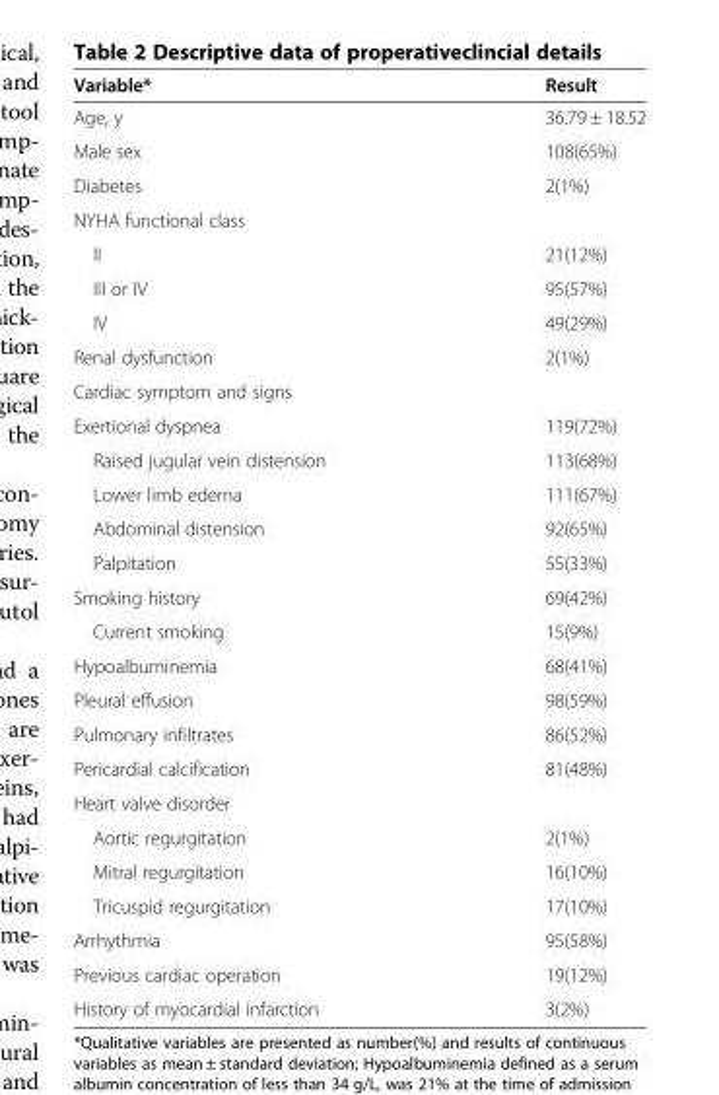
<table><thead><tr><td>Variable*</td><td>Result</td></tr></thead><tbody><tr><td>Age, y</td><td>36.79 ± 18.52</td></tr><tr><td>Male sex</td><td>108(65%)</td></tr><tr><td>Diabetes</td><td>2(1%)</td></tr><tr><td colspan="2">NYHA functional class</td></tr><tr><td>II</td><td>21(12%)</td></tr><tr><td>III or IV</td><td>95(57%)</td></tr><tr><td>IV</td><td>49(29%)</td></tr><tr><td>Renal dysfunction</td><td>2(1%)</td></tr><tr><td colspan="2">Cardiac symptom and signs</td></tr><tr><td>Exertional dyspnea</td><td>119(72%)</td></tr><tr><td>Raised jugular vein distension</td><td>113(68%)</td></tr><tr><td>Lower limb edema</td><td>111(67%)</td></tr><tr><td>Abdominal distension</td><td>92(65%)</td></tr><tr><td>Palpitation</td><td>55(33%)</td></tr><tr><td>Smoking history</td><td>69(42%)</td></tr><tr><td>Current smoking</td><td>15(9%)</td></tr><tr><td>Hypoalbuminemia</td><td>68(41%)</td></tr><tr><td>Pleural effusion</td><td>98(59%)</td></tr><tr><td>Pulmonary infiltrates</td><td>86(52%)</td></tr><tr><td>Pericardial calcification</td><td>81(48%)</td></tr><tr><td colspan="2">Heart valve disorder</td></tr><tr><td>Aortic regurgitation</td><td>2(1%)</td></tr><tr><td>Mitral regurgitation</td><td>16(10%)</td></tr><tr><td>Tricuspid regurgitation</td><td>17(10%)</td></tr><tr><td>Arrhythmia</td><td>95(58%)</td></tr><tr><td>Previous cardiac operation</td><td>19(12%)</td></tr><tr><td>History of myocardial infarction</td><td>3(2%)</td></tr></tbody></table>